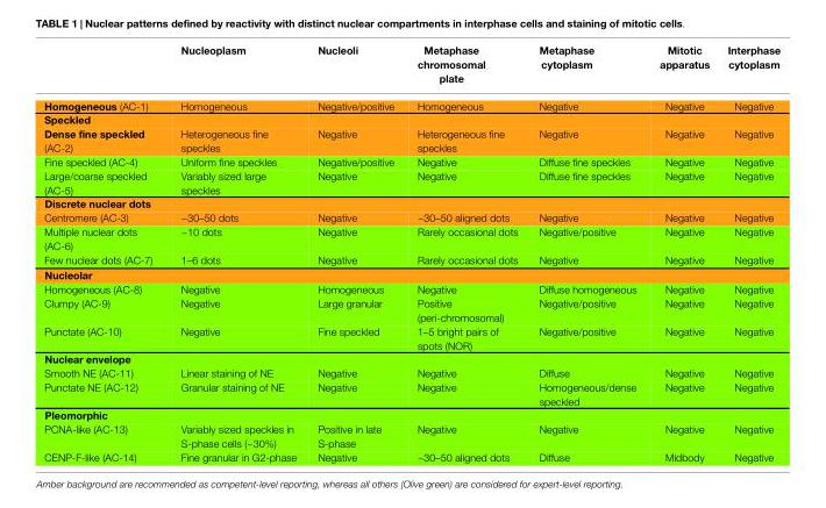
<table><thead><tr><td></td><td>Nucleoplasm</td><td>Nucleoli</td><td>Metaphase chromosomal plate</td><td>Metaphase cytoplasm</td><td>Mitotic apparatus</td><td>Interphase cytoplasm</td></tr></thead><tbody><tr><td>Homogeneous (AC-1)</td><td>Homogeneous</td><td>Negative/positive</td><td>Homogeneous</td><td>Negative</td><td>Negative</td><td>Negative</td></tr><tr><td colspan="7">Speckled</td></tr><tr><td>Dense fine speckled (AC-2)</td><td>Heterogeneous fine speckles</td><td>Negative</td><td>Heterogeneous fine speckles</td><td>Negative</td><td>Negative</td><td>Negative</td></tr><tr><td>Fine speckled (AC-4)</td><td>Uniform fine speckles</td><td>Negative/positive</td><td>Negative</td><td>Diffuse fine speckles</td><td>Negative</td><td>Negative</td></tr><tr><td>Large/coarse speckled (AC-5)</td><td>Variably sized large speckles</td><td>Negative</td><td>Negative</td><td>Diffuse fine speckles</td><td>Negative</td><td>Negative</td></tr><tr><td colspan="7">Discrete nuclear dots</td></tr><tr><td>Centromere (AC-3)</td><td>~30–50 dots</td><td>Negative</td><td>~30–50 aligned dots</td><td>Negative</td><td>Negative</td><td>Negative</td></tr><tr><td>Multiple nuclear dots (AC-6)</td><td>~10 dots</td><td>Negative</td><td>Rarely occasional dots</td><td>Negative/positive</td><td>Negative</td><td>Negative</td></tr><tr><td>Few nuclear dots (AC-7)</td><td>1–6 dots</td><td>Negative</td><td>Rarely occasional dots</td><td>Negative</td><td>Negative</td><td>Negative</td></tr><tr><td colspan="7">Nucleolar</td></tr><tr><td>Homogeneous (AC-8)</td><td>Negative</td><td>Homogeneous</td><td>Negative</td><td>Diffuse homogeneous</td><td>Negative</td><td>Negative</td></tr><tr><td>Clumpy (AC-9)</td><td>Negative</td><td>Large granular</td><td>Positive (peri-chromosomal)</td><td>Negative/positive</td><td>Negative</td><td>Negative</td></tr><tr><td>Punctate (AC-10)</td><td>Negative</td><td>Fine speckled</td><td>1–5 bright pairs of spots (NOR)</td><td>Negative/positive</td><td>Negative</td><td>Negative</td></tr><tr><td colspan="7">Nuclear envelope</td></tr><tr><td>Smooth NE (AC-11)</td><td>Linear staining of NE</td><td>Negative</td><td>Negative</td><td>Diffuse</td><td>Negative</td><td>Negative</td></tr><tr><td>Punctate NE (AC-12)</td><td>Granular staining of NE</td><td>Negative</td><td>Negative</td><td>Homogeneous/dense speckled</td><td>Negative</td><td>Negative</td></tr><tr><td colspan="7">Pleomorphic</td></tr><tr><td>PCNA-like (AC-13)</td><td>Variably sized speckles in S-phase cells (~30%)</td><td>Positive in late S-phase</td><td>Negative</td><td>Negative</td><td>Negative</td><td>Negative</td></tr><tr><td>CENP-F-like (AC-14)</td><td>Fine granular in G2-phase</td><td>Negative</td><td>~30–50 aligned dots</td><td>Diffuse</td><td>Midbody</td><td>Negative</td></tr></tbody></table>